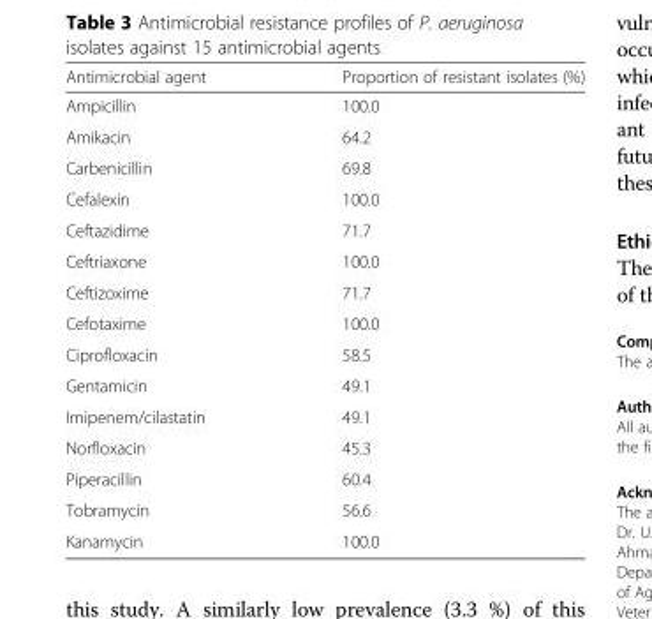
<table><thead><tr><td>Antimicrobial agent</td><td>Proportion of resistant isolates (%)</td></tr></thead><tbody><tr><td>Ampicillin</td><td>100.0</td></tr><tr><td>Amikacin</td><td>64.2</td></tr><tr><td>Carbenicillin</td><td>69.8</td></tr><tr><td>Cefalexin</td><td>100.0</td></tr><tr><td>Ceftazidime</td><td>71.7</td></tr><tr><td>Ceftriaxone</td><td>100.0</td></tr><tr><td>Ceftizoxime</td><td>71.7</td></tr><tr><td>Cefotaxime</td><td>100.0</td></tr><tr><td>Ciprofloxacin</td><td>58.5</td></tr><tr><td>Gentamicin</td><td>49.1</td></tr><tr><td>Imipenem/cilastatin</td><td>49.1</td></tr><tr><td>Norfloxacin</td><td>45.3</td></tr><tr><td>Piperacillin</td><td>60.4</td></tr><tr><td>Tobramycin</td><td>56.6</td></tr><tr><td>Kanamycin</td><td>100.0</td></tr></tbody></table>